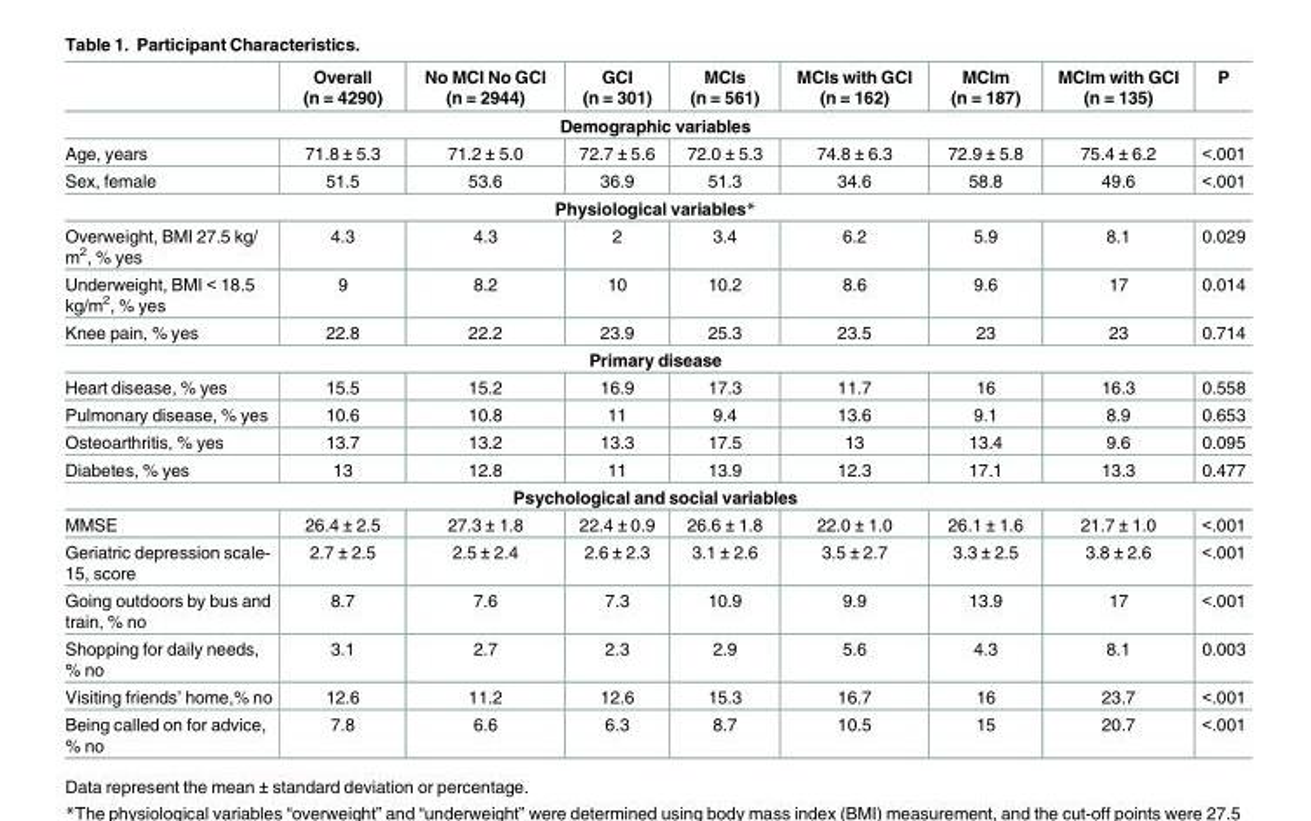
<table><thead><tr><td></td><td>Overall (n = 4290)</td><td>No MCI No GCI (n = 2944)</td><td>GCI (n = 301)</td><td>MCIs (n = 561)</td><td>MCIs with GCI (n = 162)</td><td>MCIm (n = 187)</td><td>MCIm with GCI (n = 135)</td><td>P</td></tr></thead><tbody><tr><td colspan="9">Demographic variables</td></tr><tr><td>Age, years</td><td>71.8 ± 5.3</td><td>71.2 ± 5.0</td><td>72.7 ± 5.6</td><td>72.0 ± 5.3</td><td>74.8 ± 6.3</td><td>72.9 ± 5.8</td><td>75.4 ± 6.2</td><td>&lt;.001</td></tr><tr><td>Sex, female</td><td>51.5</td><td>53.6</td><td>36.9</td><td>51.3</td><td>34.6</td><td>58.8</td><td>49.6</td><td>&lt;.001</td></tr><tr><td colspan="9">Physiological variables*</td></tr><tr><td>Overweight, BMI 27.5 kg/ m<sup>2</sup>, % yes</td><td>4.3</td><td>4.3</td><td>2</td><td>3.4</td><td>6.2</td><td>5.9</td><td>8.1</td><td>0.029</td></tr><tr><td>Underweight, BMI &lt; 18.5 kg/m<sup>2</sup>, % yes</td><td>9</td><td>8.2</td><td>10</td><td>10.2</td><td>8.6</td><td>9.6</td><td>17</td><td>0.014</td></tr><tr><td>Knee pain, % yes</td><td>22.8</td><td>22.2</td><td>23.9</td><td>25.3</td><td>23.5</td><td>23</td><td>23</td><td>0.714</td></tr><tr><td colspan="9">Primary disease</td></tr><tr><td>Heart disease, % yes</td><td>15.5</td><td>15.2</td><td>16.9</td><td>17.3</td><td>11.7</td><td>16</td><td>16.3</td><td>0.558</td></tr><tr><td>Pulmonary disease, % yes</td><td>10.6</td><td>10.8</td><td>11</td><td>9.4</td><td>13.6</td><td>9.1</td><td>8.9</td><td>0.653</td></tr><tr><td>Osteoarthritis, % yes</td><td>13.7</td><td>13.2</td><td>13.3</td><td>17.5</td><td>13</td><td>13.4</td><td>9.6</td><td>0.095</td></tr><tr><td>Diabetes, % yes</td><td>13</td><td>12.8</td><td>11</td><td>13.9</td><td>12.3</td><td>17.1</td><td>13.3</td><td>0.477</td></tr><tr><td colspan="9">Psychological and social variables</td></tr><tr><td>MMSE</td><td>26.4 ± 2.5</td><td>27.3 ± 1.8</td><td>22.4 ± 0.9</td><td>26.6 ± 1.8</td><td>22.0 ± 1.0</td><td>26.1 ± 1.6</td><td>21.7 ± 1.0</td><td>&lt;.001</td></tr><tr><td>Geriatric depression scale- 15, score</td><td>2.7 ± 2.5</td><td>2.5 ± 2.4</td><td>2.6 ± 2.3</td><td>3.1 ± 2.6</td><td>3.5 ± 2.7</td><td>3.3 ± 2.5</td><td>3.8 ± 2.6</td><td>&lt;.001</td></tr><tr><td>Going outdoors by bus and train, % no</td><td>8.7</td><td>7.6</td><td>7.3</td><td>10.9</td><td>9.9</td><td>13.9</td><td>17</td><td>&lt;.001</td></tr><tr><td>Shopping for daily needs, % no</td><td>3.1</td><td>2.7</td><td>2.3</td><td>2.9</td><td>5.6</td><td>4.3</td><td>8.1</td><td>0.003</td></tr><tr><td>Visiting friends’ home,% no</td><td>12.6</td><td>11.2</td><td>12.6</td><td>15.3</td><td>16.7</td><td>16</td><td>23.7</td><td>&lt;.001</td></tr><tr><td>Being called on for advice, % no</td><td>7.8</td><td>6.6</td><td>6.3</td><td>8.7</td><td>10.5</td><td>15</td><td>20.7</td><td>&lt;.001</td></tr></tbody></table>